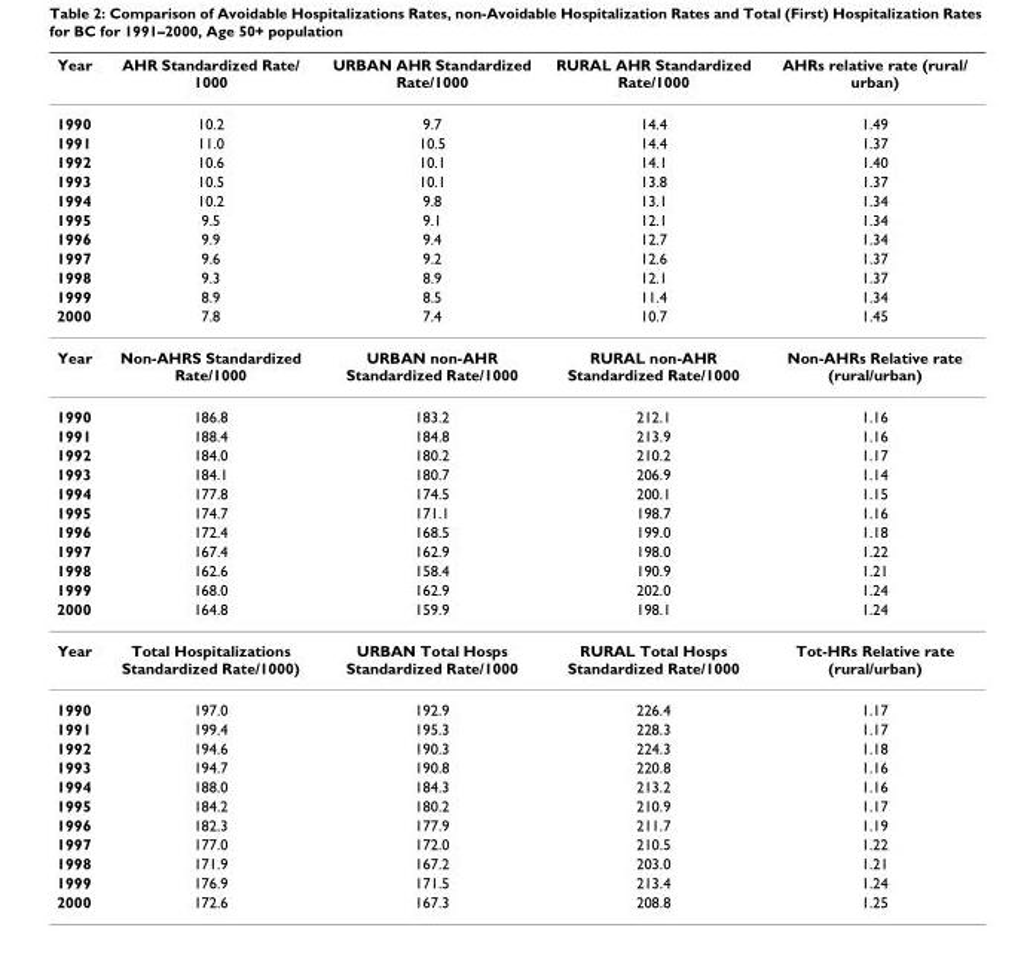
<table><thead><tr><td>Year</td><td>AHR Standardized Rate/ 1000</td><td>URBAN AHR Standardized Rate/1000</td><td>RURAL AHR Standardized Rate/1000</td><td>AHRs relative rate (rural/ urban)</td></tr></thead><tbody><tr><td>1990</td><td>10.2</td><td>9.7</td><td>14.4</td><td>1.49</td></tr><tr><td>1991</td><td>11.0</td><td>10.5</td><td>14.4</td><td>1.37</td></tr><tr><td>1992</td><td>10.6</td><td>10.1</td><td>14.1</td><td>1.40</td></tr><tr><td>1993</td><td>10.5</td><td>10.1</td><td>13.8</td><td>1.37</td></tr><tr><td>1994</td><td>10.2</td><td>9.8</td><td>13.1</td><td>1.34</td></tr><tr><td>1995</td><td>9.5</td><td>9.1</td><td>12.1</td><td>1.34</td></tr><tr><td>1996</td><td>9.9</td><td>9.4</td><td>12.7</td><td>1.34</td></tr><tr><td>1997</td><td>9.6</td><td>9.2</td><td>12.6</td><td>1.37</td></tr><tr><td>1998</td><td>9.3</td><td>8.9</td><td>12.1</td><td>1.37</td></tr><tr><td>1999</td><td>8.9</td><td>8.5</td><td>11.4</td><td>1.34</td></tr><tr><td>2000</td><td>7.8</td><td>7.4</td><td>10.7</td><td>1.45</td></tr><tr><td>Year</td><td>Non-AHRS Standardized Rate/1000</td><td>URBAN non-AHR Standardized Rate/1000</td><td>RURAL non-AHR Standardized Rate/1000</td><td>Non-AHRs Relative rate (rural/urban)</td></tr><tr><td>1990</td><td>186.8</td><td>183.2</td><td>212.1</td><td>1.16</td></tr><tr><td>1991</td><td>188.4</td><td>184.8</td><td>213.9</td><td>1.16</td></tr><tr><td>1992</td><td>184.0</td><td>180.2</td><td>210.2</td><td>1.17</td></tr><tr><td>1993</td><td>184.1</td><td>180.7</td><td>206.9</td><td>1.14</td></tr><tr><td>1994</td><td>177.8</td><td>174.5</td><td>200.1</td><td>1.15</td></tr><tr><td>1995</td><td>174.7</td><td>171.1</td><td>198.7</td><td>1.16</td></tr><tr><td>1996</td><td>172.4</td><td>168.5</td><td>199.0</td><td>1.18</td></tr><tr><td>1997</td><td>167.4</td><td>162.9</td><td>198.0</td><td>1.22</td></tr><tr><td>1998</td><td>162.6</td><td>158.4</td><td>190.9</td><td>1.21</td></tr><tr><td>1999</td><td>168.0</td><td>162.9</td><td>202.0</td><td>1.24</td></tr><tr><td>2000</td><td>164.8</td><td>159.9</td><td>198.1</td><td>1.24</td></tr><tr><td>Year</td><td>Total Hospitalizations Standardized Rate/1000)</td><td>URBAN Total Hosps Standardized Rate/1000</td><td>RURAL Total Hosps Standardized Rate/1000</td><td>Tot-HRs Relative rate (rural/urban)</td></tr><tr><td>1990</td><td>197.0</td><td>192.9</td><td>226.4</td><td>1.17</td></tr><tr><td>1991</td><td>199.4</td><td>195.3</td><td>228.3</td><td>1.17</td></tr><tr><td>1992</td><td>194.6</td><td>190.3</td><td>224.3</td><td>1.18</td></tr><tr><td>1993</td><td>194.7</td><td>190.8</td><td>220.8</td><td>1.16</td></tr><tr><td>1994</td><td>188.0</td><td>184.3</td><td>213.2</td><td>1.16</td></tr><tr><td>1995</td><td>184.2</td><td>180.2</td><td>210.9</td><td>1.17</td></tr><tr><td>1996</td><td>182.3</td><td>177.9</td><td>211.7</td><td>1.19</td></tr><tr><td>1997</td><td>177.0</td><td>172.0</td><td>210.5</td><td>1.22</td></tr><tr><td>1998</td><td>171.9</td><td>167.2</td><td>203.0</td><td>1.21</td></tr><tr><td>1999</td><td>176.9</td><td>171.5</td><td>213.4</td><td>1.24</td></tr><tr><td>2000</td><td>172.6</td><td>167.3</td><td>208.8</td><td>1.25</td></tr></tbody></table>